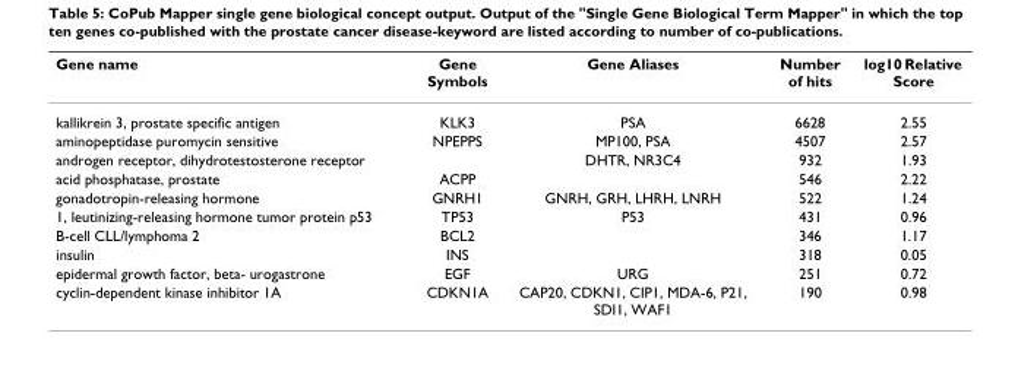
<table><thead><tr><td>Gene name</td><td>Gene Symbols</td><td>Gene Aliases</td><td>Number of hits</td><td>log10 Relative Score</td></tr></thead><tbody><tr><td>kallikrein 3, prostate specific antigen</td><td>KLK3</td><td>PSA</td><td>6628</td><td>2.55</td></tr><tr><td>aminopeptidase puromycin sensitive</td><td>NPEPPS</td><td>MP100, PSA</td><td>4507</td><td>2.57</td></tr><tr><td>androgen receptor, dihydrotestosterone receptor</td><td></td><td>DHTR, NR3C4</td><td>932</td><td>1.93</td></tr><tr><td>acid phosphatase, prostate</td><td>ACPP</td><td></td><td>546</td><td>2.22</td></tr><tr><td>gonadotropin-releasing hormone</td><td>GNRH1</td><td>GNRH, GRH, LHRH, LNRH</td><td>522</td><td>1.24</td></tr><tr><td>1, leutinizing-releasing hormone tumor protein p53</td><td>TP53</td><td>P53</td><td>431</td><td>0.96</td></tr><tr><td>B-cell CLL/lymphoma 2</td><td>BCL2</td><td></td><td>346</td><td>1.17</td></tr><tr><td>insulin</td><td>INS</td><td></td><td>318</td><td>0.05</td></tr><tr><td>epidermal growth factor, beta- urogastrone</td><td>EGF</td><td>URG</td><td>251</td><td>0.72</td></tr><tr><td>cyclin-dependent kinase inhibitor 1A</td><td>CDKN1A</td><td>CAP20, CDKN1, CIP1, MDA-6, P21, SDI1, WAF1</td><td>190</td><td>0.98</td></tr></tbody></table>